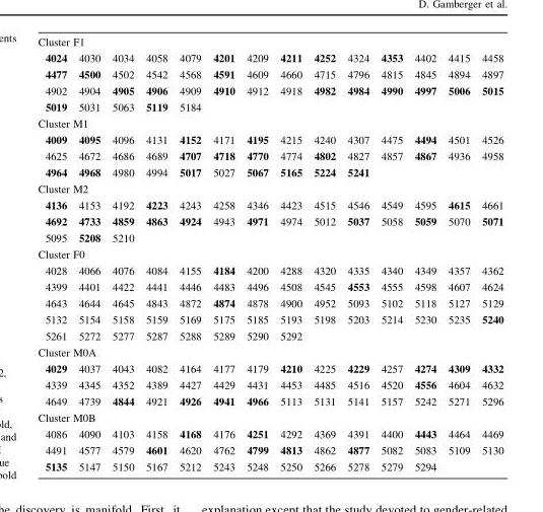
<table><tbody><tr><td colspan="14">Cluster F1</td></tr><tr><td>4024</td><td>4030</td><td>4034</td><td>4058</td><td>4079</td><td>4201</td><td>4209</td><td>4211</td><td>4252</td><td>4324</td><td>4353</td><td>4402</td><td>4415</td><td>4458</td></tr><tr><td>4477</td><td>4500</td><td>4502</td><td>4542</td><td>4568</td><td>4591</td><td>4609</td><td>4660</td><td>4715</td><td>4796</td><td>4815</td><td>4845</td><td>4894</td><td>4897</td></tr><tr><td>4902</td><td>4904</td><td>4905</td><td>4906</td><td>4909</td><td>4910</td><td>4912</td><td>4918</td><td>4982</td><td>4984</td><td>4990</td><td>4997</td><td>5006</td><td>5015</td></tr><tr><td>5019</td><td>5031</td><td>5063</td><td>5119</td><td>5184</td><td></td><td></td><td></td><td></td><td></td><td></td><td></td><td></td><td></td></tr><tr><td colspan="14">Cluster M1</td></tr><tr><td>4009</td><td>4095</td><td>4096</td><td>4131</td><td>4152</td><td>4171</td><td>4195</td><td>4215</td><td>4240</td><td>4307</td><td>4475</td><td>4494</td><td>4501</td><td>4526</td></tr><tr><td>4625</td><td>4672</td><td>4686</td><td>4689</td><td>4707</td><td>4718</td><td>4770</td><td>4774</td><td>4802</td><td>4827</td><td>4857</td><td>4867</td><td>4936</td><td>4958</td></tr><tr><td>4964</td><td>4968</td><td>4980</td><td>4994</td><td>5017</td><td>5027</td><td>5067</td><td>5165</td><td>5224</td><td>5241</td><td></td><td></td><td></td><td></td></tr><tr><td colspan="14">Cluster M2</td></tr><tr><td>4136</td><td>4153</td><td>4192</td><td>4223</td><td>4243</td><td>4258</td><td>4346</td><td>4423</td><td>4515</td><td>4546</td><td>4549</td><td>4595</td><td>4615</td><td>4661</td></tr><tr><td>4692</td><td>4733</td><td>4859</td><td>4863</td><td>4924</td><td>4943</td><td>4971</td><td>4974</td><td>5012</td><td>5037</td><td>5058</td><td>5059</td><td>5070</td><td>5071</td></tr><tr><td>5095</td><td>5208</td><td>5210</td><td></td><td></td><td></td><td></td><td></td><td></td><td></td><td></td><td></td><td></td><td></td></tr><tr><td colspan="14">Cluster F0</td></tr><tr><td>4028</td><td>4066</td><td>4076</td><td>4084</td><td>4155</td><td>4184</td><td>4200</td><td>4288</td><td>4320</td><td>4335</td><td>4340</td><td>4349</td><td>4357</td><td>4362</td></tr><tr><td>4399</td><td>4401</td><td>4422</td><td>4441</td><td>4446</td><td>4483</td><td>4496</td><td>4508</td><td>4545</td><td>4553</td><td>4555</td><td>4598</td><td>4607</td><td>4624</td></tr><tr><td>4643</td><td>4644</td><td>4645</td><td>4843</td><td>4872</td><td>4874</td><td>4878</td><td>4900</td><td>4952</td><td>5093</td><td>5102</td><td>5118</td><td>5127</td><td>5129</td></tr><tr><td>5132</td><td>5154</td><td>5158</td><td>5159</td><td>5169</td><td>5175</td><td>5185</td><td>5193</td><td>5198</td><td>5203</td><td>5214</td><td>5230</td><td>5235</td><td>5240</td></tr><tr><td>5261</td><td>5272</td><td>5277</td><td>5287</td><td>5288</td><td>5289</td><td>5290</td><td>5292</td><td></td><td></td><td></td><td></td><td></td><td></td></tr><tr><td colspan="14">Cluster M0A</td></tr><tr><td>4029</td><td>4037</td><td>4043</td><td>4082</td><td>4164</td><td>4177</td><td>4179</td><td>4210</td><td>4225</td><td>4229</td><td>4257</td><td>4274</td><td>4309</td><td>4332</td></tr><tr><td>4339</td><td>4345</td><td>4352</td><td>4389</td><td>4427</td><td>4429</td><td>4431</td><td>4453</td><td>4485</td><td>4516</td><td>4520</td><td>4556</td><td>4604</td><td>4632</td></tr><tr><td>4649</td><td>4739</td><td>4844</td><td>4921</td><td>4926</td><td>4941</td><td>4966</td><td>5113</td><td>5131</td><td>5141</td><td>5157</td><td>5242</td><td>5271</td><td>5296</td></tr><tr><td colspan="14">Cluster M0B</td></tr><tr><td>4086</td><td>4090</td><td>4103</td><td>4158</td><td>4168</td><td>4176</td><td>4251</td><td>4292</td><td>4369</td><td>4391</td><td>4400</td><td>4443</td><td>4464</td><td>4469</td></tr><tr><td>4491</td><td>4577</td><td>4579</td><td>4601</td><td>4620</td><td>4762</td><td>4799</td><td>4813</td><td>4862</td><td>4877</td><td>5082</td><td>5083</td><td>5109</td><td>5130</td></tr><tr><td>5135</td><td>5147</td><td>5150</td><td>5167</td><td>5212</td><td>5243</td><td>5248</td><td>5250</td><td>5266</td><td>5278</td><td>5279</td><td>5294</td><td></td><td></td></tr></tbody></table>